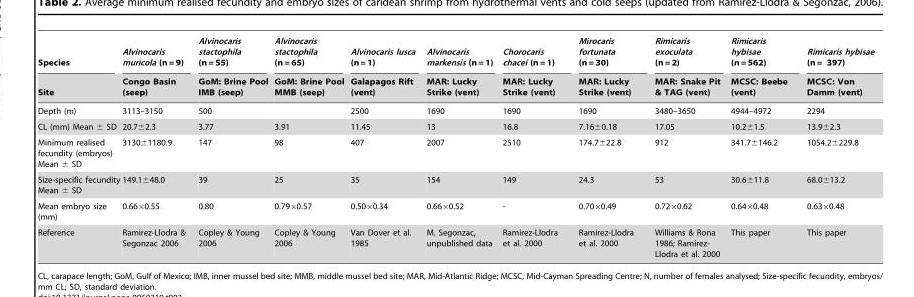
<table><thead><tr><td rowspan="2">Species Site</td><td rowspan="2">Alvinocaris muricola (n = 9) Congo Basin (seep)</td><td rowspan="2">Alvinocaris stactophila (n = 55) GoM: Brine Pool IMB (seep)</td><td rowspan="2">Alvinocaris stactophila (n = 65) GoM: Brine Pool MMB (seep)</td><td rowspan="2">Alvinocaris lusca (n = 1) Galapagos Rift (vent)</td><td rowspan="2">Alvinocaris markensis (n = 1) MAR: Lucky Strike (vent)</td><td rowspan="2">Chorocaris chacei (n = 1) MAR: Lucky Strike (vent)</td><td rowspan="2">Mirocaris fortunata (n = 30) MAR: Lucky Strike (vent)</td><td rowspan="2">Rimicaris exoculata (n = 2) MAR: Snake Pit &amp; TAG (vent)</td><td rowspan="2">Rimicaris hybisae (n = 562) MCSC: Beebe (vent)</td><td rowspan="2">Rimicaris hybisae (n = 397) MCSC: Von Damm (vent)</td></tr><tr></tr></thead><tbody><tr><td>Depth (m)</td><td>3113–3150</td><td>500</td><td></td><td>2500</td><td>1690</td><td>1690</td><td>1690</td><td>3480–3650</td><td>4944–4972</td><td>2294</td></tr><tr><td>CL (mm) Mean ± SD</td><td>20.7±2.3</td><td>3.77</td><td>3.91</td><td>11.45</td><td>13</td><td>16.8</td><td>7.16±0.18</td><td>17.05</td><td>10.2±1.5</td><td>13.9±2.3</td></tr><tr><td>Minimum realised fecundity (embryos) Mean ± SD</td><td>3130±1180.9</td><td>147</td><td>98</td><td>407</td><td>2007</td><td>2510</td><td>174.7±22.8</td><td>912</td><td>341.7±146.2</td><td>1054.2±229.8</td></tr><tr><td>Size-specific fecundity Mean ± SD</td><td>149.1±48.0</td><td>39</td><td>25</td><td>35</td><td>154</td><td>149</td><td>24.3</td><td>53</td><td>30.6±11.8</td><td>68.0±13.2</td></tr><tr><td>Mean embryo size (mm)</td><td>0.66×0.55</td><td>0.80</td><td>0.79×0.57</td><td>0.50×0.34</td><td>0.66×0.52</td><td>-</td><td>0.70×0.49</td><td>0.72×0.62</td><td>0.64×0.48</td><td>0.63×0.48</td></tr><tr><td>Reference</td><td>Ramirez-Llodra &amp; Segonzac 2006</td><td>Copley &amp; Young 2006</td><td>Copley &amp; Young 2006</td><td>Van Dover et al. 1985</td><td>M. Segonzac, unpublished data</td><td>Ramirez-Llodra et al. 2000</td><td>Ramirez-Llodra et al. 2000</td><td>Williams &amp; Rona 1986; Ramirez- Llodra et al. 2000</td><td>This paper</td><td>This paper</td></tr></tbody></table>